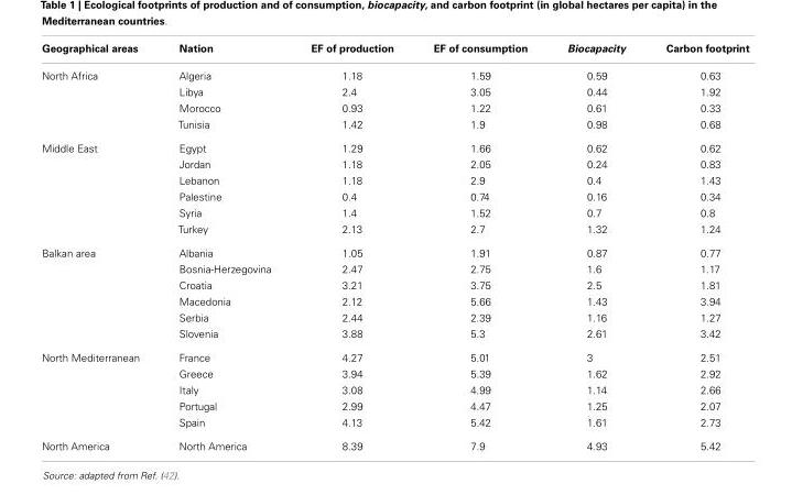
<table><thead><tr><td>Geographical areas</td><td>Nation</td><td>EF of production</td><td>EF of consumption</td><td>Biocapacity</td><td>Carbon footprint</td></tr></thead><tbody><tr><td rowspan="4">North Africa</td><td>Algeria</td><td>1.18</td><td>1.59</td><td>0.59</td><td>0.63</td></tr><tr><td>Libya</td><td>2.4</td><td>3.05</td><td>0.44</td><td>1.92</td></tr><tr><td>Morocco</td><td>0.93</td><td>1.22</td><td>0.61</td><td>0.33</td></tr><tr><td>Tunisia</td><td>1.42</td><td>1.9</td><td>0.98</td><td>0.68</td></tr><tr><td rowspan="6">Middle East</td><td>Egypt</td><td>1.29</td><td>1.66</td><td>0.62</td><td>0.62</td></tr><tr><td>Jordan</td><td>1.18</td><td>2.05</td><td>0.24</td><td>0.83</td></tr><tr><td>Lebanon</td><td>1.18</td><td>2.9</td><td>0.4</td><td>1.43</td></tr><tr><td>Palestine</td><td>0.4</td><td>0.74</td><td>0.16</td><td>0.34</td></tr><tr><td>Syria</td><td>1.4</td><td>1.52</td><td>0.7</td><td>0.8</td></tr><tr><td>Turkey</td><td>2.13</td><td>2.7</td><td>1.32</td><td>1.24</td></tr><tr><td rowspan="6">Balkan area</td><td>Albania</td><td>1.05</td><td>1.91</td><td>0.87</td><td>0.77</td></tr><tr><td>Bosnia-Herzegovina</td><td>2.47</td><td>2.75</td><td>1.6</td><td>1.17</td></tr><tr><td>Croatia</td><td>3.21</td><td>3.75</td><td>2.5</td><td>1.81</td></tr><tr><td>Macedonia</td><td>2.12</td><td>5.66</td><td>1.43</td><td>3.94</td></tr><tr><td>Serbia</td><td>2.44</td><td>2.39</td><td>1.16</td><td>1.27</td></tr><tr><td>Slovenia</td><td>3.88</td><td>5.3</td><td>2.61</td><td>3.42</td></tr><tr><td rowspan="5">North Mediterranean</td><td>France</td><td>4.27</td><td>5.01</td><td>3</td><td>2.51</td></tr><tr><td>Greece</td><td>3.94</td><td>5.39</td><td>1.62</td><td>2.92</td></tr><tr><td>Italy</td><td>3.08</td><td>4.99</td><td>1.14</td><td>2.66</td></tr><tr><td>Portugal</td><td>2.99</td><td>4.47</td><td>1.25</td><td>2.07</td></tr><tr><td>Spain</td><td>4.13</td><td>5.42</td><td>1.61</td><td>2.73</td></tr><tr><td>North America</td><td>North America</td><td>8.39</td><td>7.9</td><td>4.93</td><td>5.42</td></tr></tbody></table>